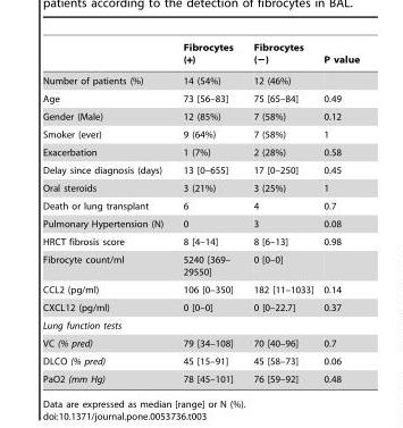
<table><thead><tr><td></td><td>Fibrocytes (+)</td><td>Fibrocytes (−)</td><td>P value</td></tr></thead><tbody><tr><td>Number of patients (%)</td><td>14 (54%)</td><td>12 (46%)</td><td></td></tr><tr><td>Age</td><td>73 [56–83]</td><td>75 [65–84]</td><td>0.49</td></tr><tr><td>Gender (Male)</td><td>12 (85%)</td><td>7 (58%)</td><td>0.12</td></tr><tr><td>Smoker (ever)</td><td>9 (64%)</td><td>7 (58%)</td><td>1</td></tr><tr><td>Exacerbation</td><td>1 (7%)</td><td>2 (28%)</td><td>0.58</td></tr><tr><td>Delay since diagnosis (days)</td><td>13 [0–655]</td><td>17 [0–250]</td><td>0.45</td></tr><tr><td>Oral steroids</td><td>3 (21%)</td><td>3 (25%)</td><td>1</td></tr><tr><td>Death or lung transplant</td><td>6</td><td>4</td><td>0.7</td></tr><tr><td>Pulmonary Hypertension (N)</td><td>0</td><td>3</td><td>0.08</td></tr><tr><td>HRCT fibrosis score</td><td>8 [4–14]</td><td>8 [6–13]</td><td>0.98</td></tr><tr><td>Fibrocyte count/ml</td><td>5240 [369– 29550]</td><td>0 [0–0]</td><td></td></tr><tr><td>CCL2 (pg/ml)</td><td>106 [0–350]</td><td>182 [11–1033]</td><td>0.14</td></tr><tr><td>CXCL12 (pg/ml)</td><td>0 [0–0]</td><td>0 [0–22.7]</td><td>0.37</td></tr><tr><td colspan="4">Lung function tests</td></tr><tr><td>VC (% pred)</td><td>79 [34–108]</td><td>70 [40–96]</td><td>0.7</td></tr><tr><td>DLCO (% pred)</td><td>45 [15–91]</td><td>45 [58–73]</td><td>0.06</td></tr><tr><td>PaO2 (mm Hg)</td><td>78 [45–101]</td><td>76 [59–92]</td><td>0.48</td></tr></tbody></table>